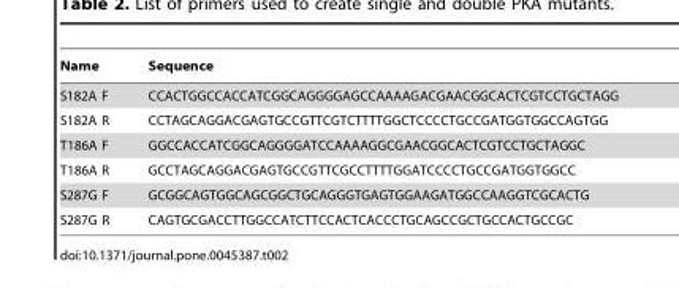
<table><thead><tr><td>Name</td><td>Sequence</td></tr></thead><tbody><tr><td>S182A F</td><td>CCACTGGCCACCATCGGCAGGGGAGCCAAAAGACGAACGGCACTCGTCCTGCTAGG</td></tr><tr><td>S182A R</td><td>CCTAGCAGGACGAGTGCCGTTCGTCTTTTGGCTCCCCTGCCGATGGTGGCCAGTGG</td></tr><tr><td>T186A F</td><td>GGCCACCATCGGCAGGGGATCCAAAAGGCGAACGGCACTCGTCCTGCTAGGC</td></tr><tr><td>T186A R</td><td>GCCTAGCAGGACGAGTGCCGTTCGCCTTTTGGATCCCCTGCCGATGGTGGCC</td></tr><tr><td>S287G F</td><td>GCGGCAGTGGCAGCGGCTGCAGGGTGAGTGGAAGATGGCCAAGGTCGCACTG</td></tr><tr><td>S287G R</td><td>CAGTGCGACCTTGGCCATCTTCCACTCACCCTGCAGCCGCTGCCACTGCCGC</td></tr></tbody></table>